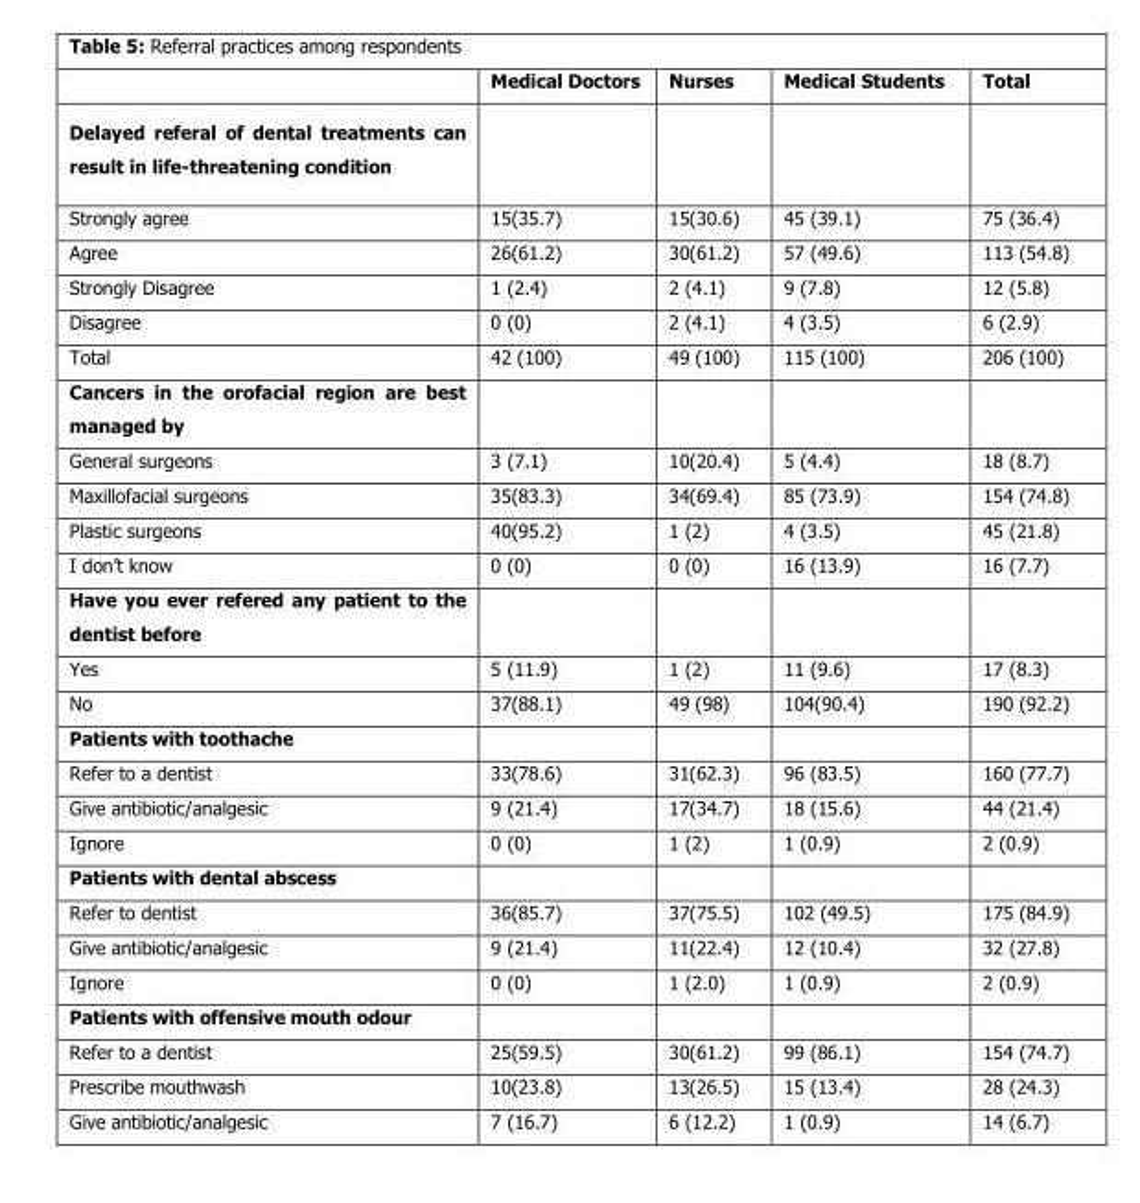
<table><thead><tr><td></td><td>Medical Doctors</td><td>Nurses</td><td>Medical Students</td><td>Total</td></tr></thead><tbody><tr><td colspan="5">Delayed referal of dental treatments can result in life-threatening condition</td></tr><tr><td>Strongly agree</td><td>15(35.7)</td><td>15(30.6)</td><td>45 (39.1)</td><td>75 (36.4)</td></tr><tr><td>Agree</td><td>26(61.2)</td><td>30(61.2)</td><td>57 (49.6)</td><td>113 (54.8)</td></tr><tr><td>Strongly Disagree</td><td>1 (2.4)</td><td>2 (4.1)</td><td>9 (7.8)</td><td>12 (5.8)</td></tr><tr><td>Disagree</td><td>0 (0)</td><td>2 (4.1)</td><td>4 (3.5)</td><td>6 (2.9)</td></tr><tr><td>Total</td><td>42 (100)</td><td>49 (100)</td><td>115 (100)</td><td>206 (100)</td></tr><tr><td colspan="5">Cancers in the orofacial region are best managed by</td></tr><tr><td>General surgeons</td><td>3 (7.1)</td><td>10(20.4)</td><td>5 (4.4)</td><td>18 (8.7)</td></tr><tr><td>Maxillofacial surgeons</td><td>35(83.3)</td><td>34(69.4)</td><td>85 (73.9)</td><td>154 (74.8)</td></tr><tr><td>Plastic surgeons</td><td>40(95.2)</td><td>1 (2)</td><td>4 (3.5)</td><td>45 (21.8)</td></tr><tr><td>I don’t know</td><td>0 (0)</td><td>0 (0)</td><td>16 (13.9)</td><td>16 (7.7)</td></tr><tr><td colspan="5">Have you ever refered any patient to the dentist before</td></tr><tr><td>Yes</td><td>5 (11.9)</td><td>1 (2)</td><td>11 (9.6)</td><td>17 (8.3)</td></tr><tr><td>No</td><td>37(88.1)</td><td>49 (98)</td><td>104(90.4)</td><td>190 (92.2)</td></tr><tr><td colspan="5">Patients with toothache</td></tr><tr><td>Refer to a dentist</td><td>33(78.6)</td><td>31(62.3)</td><td>96 (83.5)</td><td>160 (77.7)</td></tr><tr><td>Give antibiotic/analgesic</td><td>9 (21.4)</td><td>17(34.7)</td><td>18 (15.6)</td><td>44 (21.4)</td></tr><tr><td>Ignore</td><td>0 (0)</td><td>1 (2)</td><td>1 (0.9)</td><td>2 (0.9)</td></tr><tr><td colspan="5">Patients with dental abscess</td></tr><tr><td>Refer to dentist</td><td>36(85.7)</td><td>37(75.5)</td><td>102 (49.5)</td><td>175 (84.9)</td></tr><tr><td>Give antibiotic/analgesic</td><td>9 (21.4)</td><td>11(22.4)</td><td>12 (10.4)</td><td>32 (27.8)</td></tr><tr><td>Ignore</td><td>0 (0)</td><td>1 (2.0)</td><td>1 (0.9)</td><td>2 (0.9)</td></tr><tr><td colspan="5">Patients with offensive mouth odour</td></tr><tr><td>Refer to a dentist</td><td>25(59.5)</td><td>30(61.2)</td><td>99 (86.1)</td><td>154 (74.7)</td></tr><tr><td>Prescribe mouthwash</td><td>10(23.8)</td><td>13(26.5)</td><td>15 (13.4)</td><td>28 (24.3)</td></tr><tr><td>Give antibiotic/analgesic</td><td>7 (16.7)</td><td>6 (12.2)</td><td>1 (0.9)</td><td>14 (6.7)</td></tr></tbody></table>